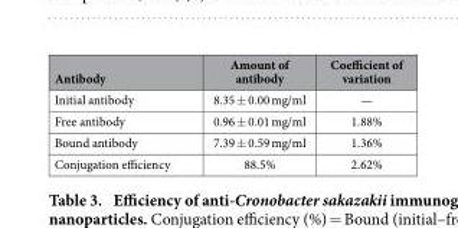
<table><thead><tr><td>Antibody</td><td>Amount of antibody</td><td>Coefficient of variation</td></tr></thead><tbody><tr><td>Initial antibody</td><td>8.35 ± 0.00 mg/ml</td><td>—</td></tr><tr><td>Free antibody</td><td>0.96 ± 0.01 mg/ml</td><td>1.88%</td></tr><tr><td>Bound antibody</td><td>7.39 ± 0.59 mg/ml</td><td>1.36%</td></tr><tr><td>Conjugation efficiency</td><td>88.5%</td><td>2.62%</td></tr></tbody></table>